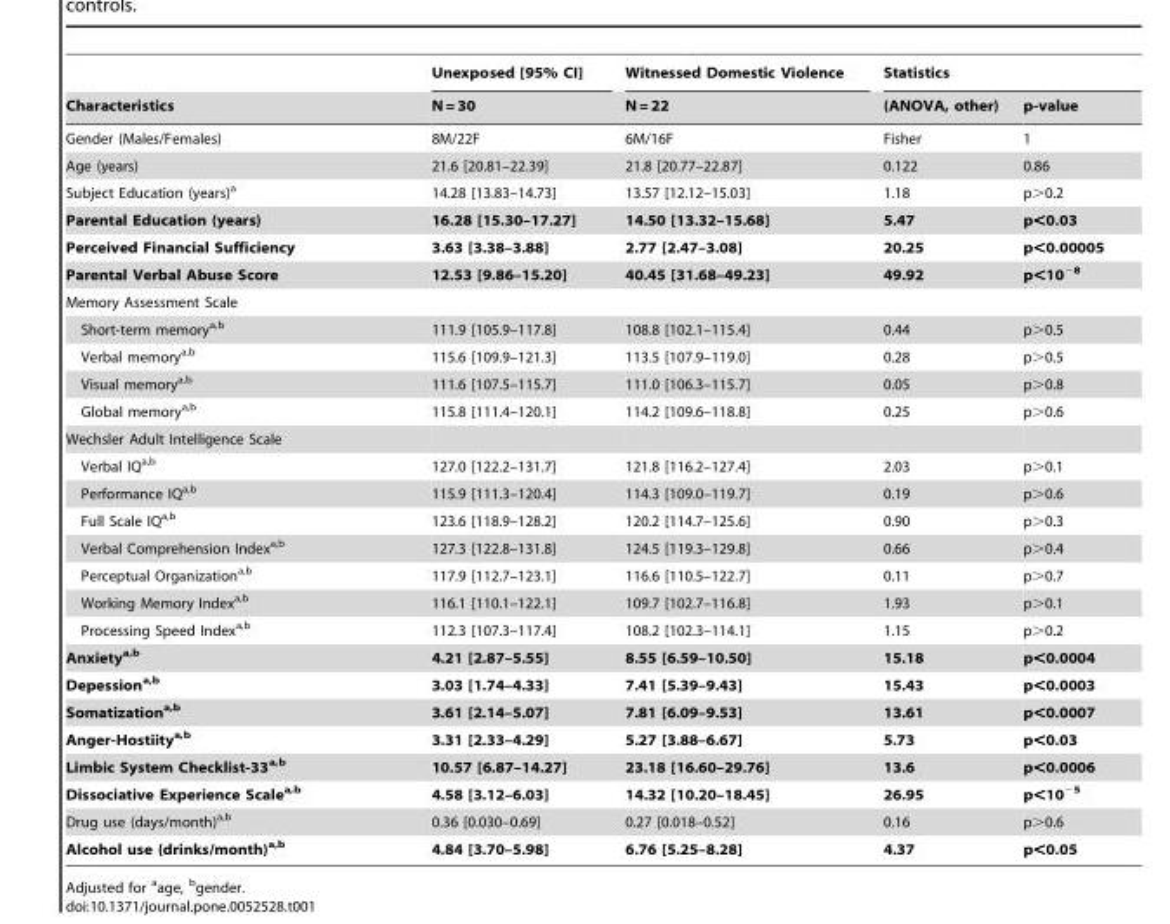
<table><thead><tr><td rowspan="2">Characteristics</td><td rowspan="2">Unexposed [95% CI] N = 30</td><td rowspan="2">Witnessed Domestic Violence N = 22</td><td colspan="2">Statistics</td></tr><tr><td>(ANOVA, other)</td><td>p-value</td></tr></thead><tbody><tr><td>Gender (Males/Females)</td><td>8M/22F</td><td>6M/16F</td><td>Fisher</td><td>1</td></tr><tr><td>Age (years)</td><td>21.6 [20.81–22.39]</td><td>21.8 [20.77–22.87]</td><td>0.122</td><td>0.86</td></tr><tr><td>Subject Education (years)<sup>a</sup></td><td>14.28 [13.83–14.73]</td><td>13.57 [12.12–15.03]</td><td>1.18</td><td>p&gt;0.2</td></tr><tr><td>Parental Education (years)</td><td>16.28 [15.30–17.27]</td><td>14.50 [13.32–15.68]</td><td>5.47</td><td>p&lt;0.03</td></tr><tr><td>Perceived Financial Sufficiency</td><td>3.63 [3.38–3.88]</td><td>2.77 [2.47–3.08]</td><td>20.25</td><td>p&lt;0.00005</td></tr><tr><td>Parental Verbal Abuse Score</td><td>12.53 [9.86–15.20]</td><td>40.45 [31.68–49.23]</td><td>49.92</td><td>p&lt;10<sup>−8</sup></td></tr><tr><td colspan="5">Memory Assessment Scale</td></tr><tr><td>Short-term memory<sup>a,b</sup></td><td>111.9 [105.9–117.8]</td><td>108.8 [102.1–115.4]</td><td>0.44</td><td>p&gt;0.5</td></tr><tr><td>Verbal memory<sup>a,b</sup></td><td>115.6 [109.9–121.3]</td><td>113.5 [107.9–119.0]</td><td>0.28</td><td>p&gt;0.5</td></tr><tr><td>Visual memory<sup>a,b</sup></td><td>111.6 [107.5–115.7]</td><td>111.0 [106.3–115.7]</td><td>0.05</td><td>p&gt;0.8</td></tr><tr><td>Global memory<sup>a,b</sup></td><td>115.8 [111.4–120.1]</td><td>114.2 [109.6–118.8]</td><td>0.25</td><td>p&gt;0.6</td></tr><tr><td colspan="5">Wechsler Adult Intelligence Scale</td></tr><tr><td>Verbal IQ<sup>a,b</sup></td><td>127.0 [122.2–131.7]</td><td>121.8 [116.2–127.4]</td><td>2.03</td><td>p&gt;0.1</td></tr><tr><td>Performance IQ<sup>a,b</sup></td><td>115.9 [111.3–120.4]</td><td>114.3 [109.0–119.7]</td><td>0.19</td><td>p&gt;0.6</td></tr><tr><td>Full Scale IQ<sup>a,b</sup></td><td>123.6 [118.9–128.2]</td><td>120.2 [114.7–125.6]</td><td>0.90</td><td>p&gt;0.3</td></tr><tr><td>Verbal Comprehension Index<sup>a,b</sup></td><td>127.3 [122.8–131.8]</td><td>124.5 [119.3–129.8]</td><td>0.66</td><td>p&gt;0.4</td></tr><tr><td>Perceptual Organization<sup>a,b</sup></td><td>117.9 [112.7–123.1]</td><td>116.6 [110.5–122.7]</td><td>0.11</td><td>p&gt;0.7</td></tr><tr><td>Working Memory Index<sup>a,b</sup></td><td>116.1 [110.1–122.1]</td><td>109.7 [102.7–116.8]</td><td>1.93</td><td>p&gt;0.1</td></tr><tr><td>Processing Speed Index<sup>a,b</sup></td><td>112.3 [107.3–117.4]</td><td>108.2 [102.3–114.1]</td><td>1.15</td><td>p&gt;0.2</td></tr><tr><td>Anxiety<sup>a,b</sup></td><td>4.21 [2.87–5.55]</td><td>8.55 [6.59–10.50]</td><td>15.18</td><td>p&lt;0.0004</td></tr><tr><td>Depession<sup>a,b</sup></td><td>3.03 [1.74–4.33]</td><td>7.41 [5.39–9.43]</td><td>15.43</td><td>p&lt;0.0003</td></tr><tr><td>Somatization<sup>a,b</sup></td><td>3.61 [2.14–5.07]</td><td>7.81 [6.09–9.53]</td><td>13.61</td><td>p&lt;0.0007</td></tr><tr><td>Anger-Hostiity<sup>a,b</sup></td><td>3.31 [2.33–4.29]</td><td>5.27 [3.88–6.67]</td><td>5.73</td><td>p&lt;0.03</td></tr><tr><td>Limbic System Checklist-33<sup>a,b</sup></td><td>10.57 [6.87–14.27]</td><td>23.18 [16.60–29.76]</td><td>13.6</td><td>p&lt;0.0006</td></tr><tr><td>Dissociative Experience Scale<sup>a,b</sup></td><td>4.58 [3.12–6.03]</td><td>14.32 [10.20–18.45]</td><td>26.95</td><td>p&lt;10<sup>−5</sup></td></tr><tr><td>Drug use (days/month)<sup>a,b</sup></td><td>0.36 [0.030–0.69]</td><td>0.27 [0.018–0.52]</td><td>0.16</td><td>p&gt;0.6</td></tr><tr><td>Alcohol use (drinks/month)<sup>a,b</sup></td><td>4.84 [3.70–5.98]</td><td>6.76 [5.25–8.28]</td><td>4.37</td><td>p&lt;0.05</td></tr></tbody></table>